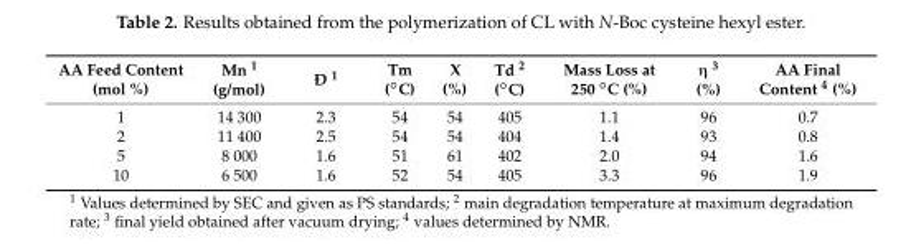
<table><thead><tr><td>AA Feed Content (mol %)</td><td>Mn <sup>1</sup> (g/mol)</td><td>Đ <sup>1</sup></td><td>Tm (◦C)</td><td>X (%)</td><td>Td 2 (◦C)</td><td>Mass Loss at 250 ◦C (%)</td><td>η <sup>3</sup> (%)</td><td>AA Final Content <sup>4</sup> (%)</td></tr></thead><tbody><tr><td>1</td><td>14 300</td><td>2.3</td><td>54</td><td>54</td><td>405</td><td>1.1</td><td>96</td><td>0.7</td></tr><tr><td>2</td><td>11 400</td><td>2.5</td><td>54</td><td>54</td><td>404</td><td>1.4</td><td>93</td><td>0.8</td></tr><tr><td>5</td><td>8 000</td><td>1.6</td><td>51</td><td>61</td><td>402</td><td>2.0</td><td>94</td><td>1.6</td></tr><tr><td>10</td><td>6 500</td><td>1.6</td><td>52</td><td>54</td><td>405</td><td>3.3</td><td>96</td><td>1.9</td></tr></tbody></table>